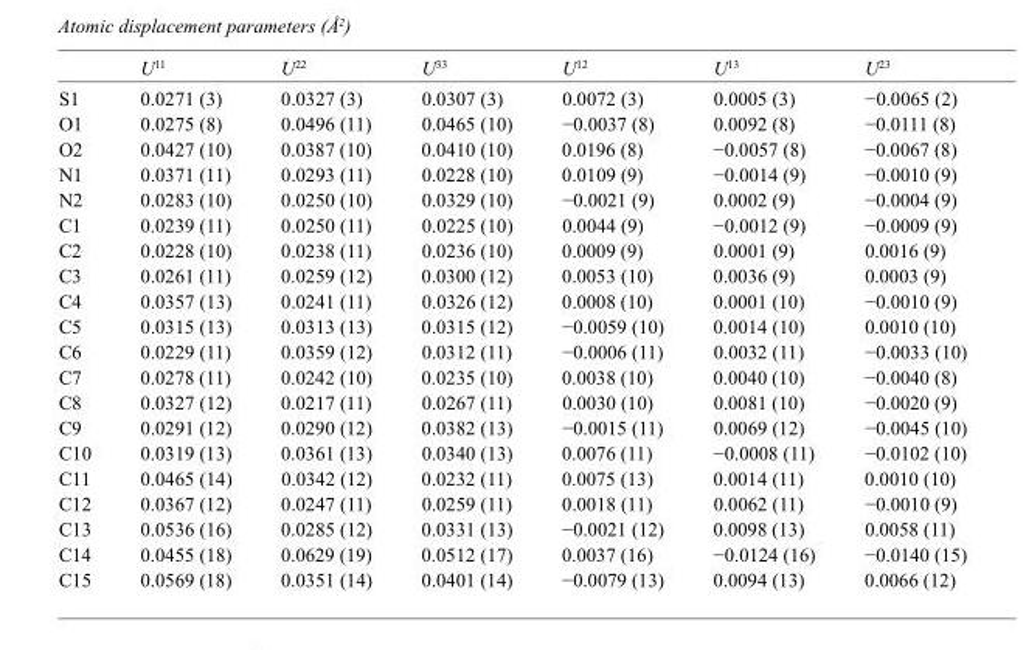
<table><thead><tr><td></td><td>U<sup>11</sup></td><td>U<sup>22</sup></td><td>U<sup>33</sup></td><td>U<sup>12</sup></td><td>U<sup>13</sup></td><td>U<sup>23</sup></td></tr></thead><tbody><tr><td>S1</td><td>0.0271 (3)</td><td>0.0327 (3)</td><td>0.0307 (3)</td><td>0.0072 (3)</td><td>0.0005 (3)</td><td>−0.0065 (2)</td></tr><tr><td>O1</td><td>0.0275 (8)</td><td>0.0496 (11)</td><td>0.0465 (10)</td><td>−0.0037 (8)</td><td>0.0092 (8)</td><td>−0.0111 (8)</td></tr><tr><td>O2</td><td>0.0427 (10)</td><td>0.0387 (10)</td><td>0.0410 (10)</td><td>0.0196 (8)</td><td>−0.0057 (8)</td><td>−0.0067 (8)</td></tr><tr><td>N1</td><td>0.0371 (11)</td><td>0.0293 (11)</td><td>0.0228 (10)</td><td>0.0109 (9)</td><td>−0.0014 (9)</td><td>−0.0010 (9)</td></tr><tr><td>N2</td><td>0.0283 (10)</td><td>0.0250 (10)</td><td>0.0329 (10)</td><td>−0.0021 (9)</td><td>0.0002 (9)</td><td>−0.0004 (9)</td></tr><tr><td>C1</td><td>0.0239 (11)</td><td>0.0250 (11)</td><td>0.0225 (10)</td><td>0.0044 (9)</td><td>−0.0012 (9)</td><td>−0.0009 (9)</td></tr><tr><td>C2</td><td>0.0228 (10)</td><td>0.0238 (11)</td><td>0.0236 (10)</td><td>0.0009 (9)</td><td>0.0001 (9)</td><td>0.0016 (9)</td></tr><tr><td>C3</td><td>0.0261 (11)</td><td>0.0259 (12)</td><td>0.0300 (12)</td><td>0.0053 (10)</td><td>0.0036 (9)</td><td>0.0003 (9)</td></tr><tr><td>C4</td><td>0.0357 (13)</td><td>0.0241 (11)</td><td>0.0326 (12)</td><td>0.0008 (10)</td><td>0.0001 (10)</td><td>−0.0010 (9)</td></tr><tr><td>C5</td><td>0.0315 (13)</td><td>0.0313 (13)</td><td>0.0315 (12)</td><td>−0.0059 (10)</td><td>0.0014 (10)</td><td>0.0010 (10)</td></tr><tr><td>C6</td><td>0.0229 (11)</td><td>0.0359 (12)</td><td>0.0312 (11)</td><td>−0.0006 (11)</td><td>0.0032 (11)</td><td>−0.0033 (10)</td></tr><tr><td>C7</td><td>0.0278 (11)</td><td>0.0242 (10)</td><td>0.0235 (10)</td><td>0.0038 (10)</td><td>0.0040 (10)</td><td>−0.0040 (8)</td></tr><tr><td>C8</td><td>0.0327 (12)</td><td>0.0217 (11)</td><td>0.0267 (11)</td><td>0.0030 (10)</td><td>0.0081 (10)</td><td>−0.0020 (9)</td></tr><tr><td>C9</td><td>0.0291 (12)</td><td>0.0290 (12)</td><td>0.0382 (13)</td><td>−0.0015 (11)</td><td>0.0069 (12)</td><td>−0.0045 (10)</td></tr><tr><td>C10</td><td>0.0319 (13)</td><td>0.0361 (13)</td><td>0.0340 (13)</td><td>0.0076 (11)</td><td>−0.0008 (11)</td><td>−0.0102 (10)</td></tr><tr><td>C11</td><td>0.0465 (14)</td><td>0.0342 (12)</td><td>0.0232 (11)</td><td>0.0075 (13)</td><td>0.0014 (11)</td><td>0.0010 (10)</td></tr><tr><td>C12</td><td>0.0367 (12)</td><td>0.0247 (11)</td><td>0.0259 (11)</td><td>0.0018 (11)</td><td>0.0062 (11)</td><td>−0.0010 (9)</td></tr><tr><td>C13</td><td>0.0536 (16)</td><td>0.0285 (12)</td><td>0.0331 (13)</td><td>−0.0021 (12)</td><td>0.0098 (13)</td><td>0.0058 (11)</td></tr><tr><td>C14</td><td>0.0455 (18)</td><td>0.0629 (19)</td><td>0.0512 (17)</td><td>0.0037 (16)</td><td>−0.0124 (16)</td><td>−0.0140 (15)</td></tr><tr><td>C15</td><td>0.0569 (18)</td><td>0.0351 (14)</td><td>0.0401 (14)</td><td>−0.0079 (13)</td><td>0.0094 (13)</td><td>0.0066 (12)</td></tr></tbody></table>